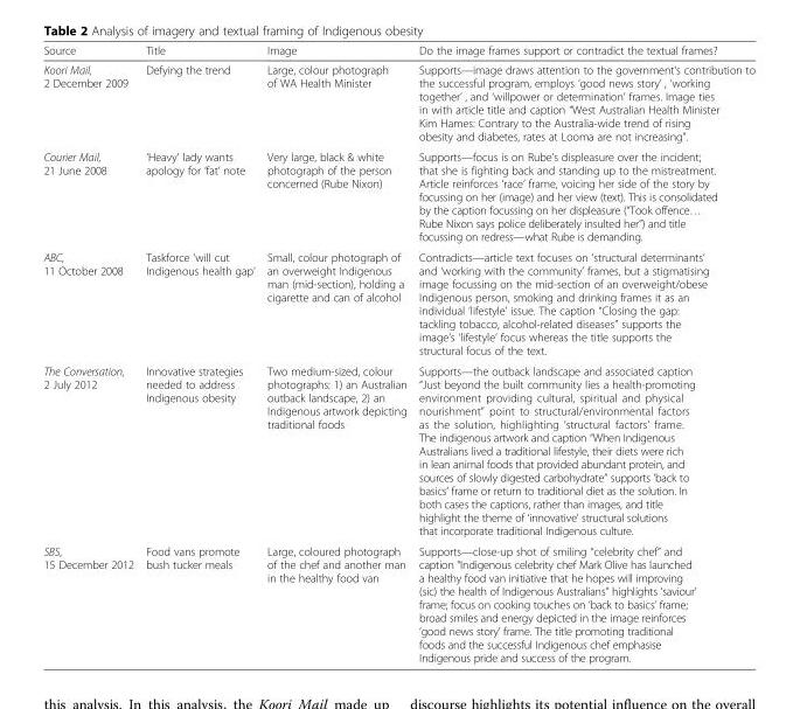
<table><thead><tr><td>Source</td><td>Title</td><td>Image</td><td>Do the image frames support or contradict the textual frames?</td></tr></thead><tbody><tr><td>Koori Mail, 2 December 2009</td><td>Defying the trend</td><td>Large, colour photograph of WA Health Minister</td><td>Supports—image draws attention to the government&#x27;s contribution to the successful program, employs ‘good news story’ , ‘working together’ , and ‘willpower or determination’ frames. Image ties in with article title and caption “West Australian Health Minister Kim Hames: Contrary to the Australia-wide trend of rising obesity and diabetes, rates at Looma are not increasing”.</td></tr><tr><td>Courier Mail, 21 June 2008</td><td>‘Heavy&#x27; lady wants apology for ‘fat’ note</td><td>Very large, black &amp; white photograph of the person concerned (Rube Nixon)</td><td>Supports—focus is on Rube’s displeasure over the incident; that she is fighting back and standing up to the mistreatment. Article reinforces ‘race’ frame, voicing her side of the story by focussing on her (image) and her view (text). This is consolidated by the caption focussing on her displeasure (“Took offence… Rube Nixon says police deliberately insulted her”) and title focussing on redress—what Rube is demanding.</td></tr><tr><td>ABC, 11 October 2008</td><td>Taskforce ‘will cut Indigenous health gap’</td><td>Small, colour photograph of an overweight Indigenous man (mid-section), holding a cigarette and can of alcohol</td><td>Contradicts—article text focuses on ‘structural determinants’ and ‘working with the community’ frames, but a stigmatising image focussing on the mid-section of an overweight/obese Indigenous person, smoking and drinking frames it as an individual ‘lifestyle’ issue. The caption “Closing the gap: tackling tobacco, alcohol-related diseases” supports the image’s ‘lifestyle’ focus whereas the title supports the structural focus of the text.</td></tr><tr><td>The Conversation, 2 July 2012</td><td>Innovative strategies needed to address Indigenous obesity</td><td>Two medium-sized, colour photographs: 1) an Australian outback landscape, 2) an Indigenous artwork depicting traditional foods</td><td>Supports—the outback landscape and associated caption “Just beyond the built community lies a health-promoting environment providing cultural, spiritual and physical nourishment” point to structural/environmental factors as the solution, highlighting ‘structural factors’ frame. The indigenous artwork and caption “When Indigenous Australians lived a traditional lifestyle, their diets were rich in lean animal foods that provided abundant protein, and sources of slowly digested carbohydrate” supports ‘back to basics’ frame or return to traditional diet as the solution. In both cases the captions, rather than images, and title highlight the theme of ‘innovative’ structural solutions that incorporate traditional Indigenous culture.</td></tr><tr><td>SBS, 15 December 2012</td><td>Food vans promote bush tucker meals</td><td>Large, coloured photograph of the chef and another man in the healthy food van</td><td>Supports—close-up shot of smiling “celebrity chef” and caption “Indigenous celebrity chef Mark Olive has launched a healthy food van initiative that he hopes will improving (sic) the health of Indigenous Australians” highlights ‘saviour’ frame; focus on cooking touches on ‘back to basics’ frame; broad smiles and energy depicted in the image reinforces ‘good news story’ frame. The title promoting traditional foods and the successful Indigenous chef emphasise Indigenous pride and success of the program.</td></tr></tbody></table>